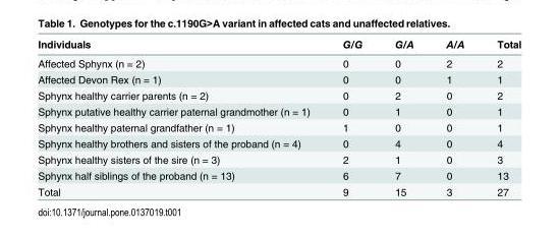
<table><thead><tr><td>Individuals</td><td>G/G</td><td>G/A</td><td>A/A</td><td>Total</td></tr></thead><tbody><tr><td>Affected Sphynx (n = 2)</td><td>0</td><td>0</td><td>2</td><td>2</td></tr><tr><td>Affected Devon Rex (n = 1)</td><td>0</td><td>0</td><td>1</td><td>1</td></tr><tr><td>Sphynx healthy carrier parents (n = 2)</td><td>0</td><td>2</td><td>0</td><td>2</td></tr><tr><td>Sphynx putative healthy carrier paternal grandmother (n = 1)</td><td>0</td><td>1</td><td>0</td><td>1</td></tr><tr><td>Sphynx healthy paternal grandfather (n = 1)</td><td>1</td><td>0</td><td>0</td><td>1</td></tr><tr><td>Sphynx healthy brothers and sisters of the proband (n = 4)</td><td>0</td><td>4</td><td>0</td><td>4</td></tr><tr><td>Sphynx healthy sisters of the sire (n = 3)</td><td>2</td><td>1</td><td>0</td><td>3</td></tr><tr><td>Sphynx half siblings of the proband (n = 13)</td><td>6</td><td>7</td><td>0</td><td>13</td></tr><tr><td>Total</td><td>9</td><td>15</td><td>3</td><td>27</td></tr></tbody></table>